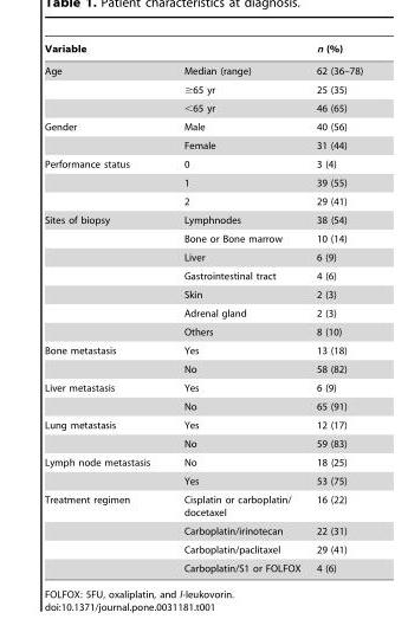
<table><thead><tr><td colspan="2">Variable</td><td rowspan="2">n (%) 62 (36–78)</td></tr><tr><td>Age</td><td>Median (range)</td></tr></thead><tbody><tr><td></td><td>≥65 yr</td><td>25 (35)</td></tr><tr><td></td><td>&lt;65 yr</td><td>46 (65)</td></tr><tr><td rowspan="2">Gender</td><td>Male</td><td>40 (56)</td></tr><tr><td>Female</td><td>31 (44)</td></tr><tr><td rowspan="3">Performance status</td><td>0</td><td>3 (4)</td></tr><tr><td>1</td><td>39 (55)</td></tr><tr><td>2</td><td>29 (41)</td></tr><tr><td rowspan="7">Sites of biopsy</td><td>Lymphnodes</td><td>38 (54)</td></tr><tr><td>Bone or Bone marrow</td><td>10 (14)</td></tr><tr><td>Liver</td><td>6 (9)</td></tr><tr><td>Gastrointestinal tract</td><td>4 (6)</td></tr><tr><td>Skin</td><td>2 (3)</td></tr><tr><td>Adrenal gland</td><td>2 (3)</td></tr><tr><td>Others</td><td>8 (10)</td></tr><tr><td rowspan="2">Bone metastasis</td><td>Yes</td><td>13 (18)</td></tr><tr><td>No</td><td>58 (82)</td></tr><tr><td rowspan="2">Liver metastasis</td><td>Yes</td><td>6 (9)</td></tr><tr><td>No</td><td>65 (91)</td></tr><tr><td rowspan="2">Lung metastasis</td><td>Yes</td><td>12 (17)</td></tr><tr><td>No</td><td>59 (83)</td></tr><tr><td rowspan="2">Lymph node metastasis</td><td>No</td><td>18 (25)</td></tr><tr><td>Yes</td><td>53 (75)</td></tr><tr><td rowspan="4">Treatment regimen</td><td>Cisplatin or carboplatin/ docetaxel</td><td>16 (22)</td></tr><tr><td>Carboplatin/irinotecan</td><td>22 (31)</td></tr><tr><td>Carboplatin/paclitaxel</td><td>29 (41)</td></tr><tr><td>Carboplatin/S1 or FOLFOX</td><td>4 (6)</td></tr></tbody></table>